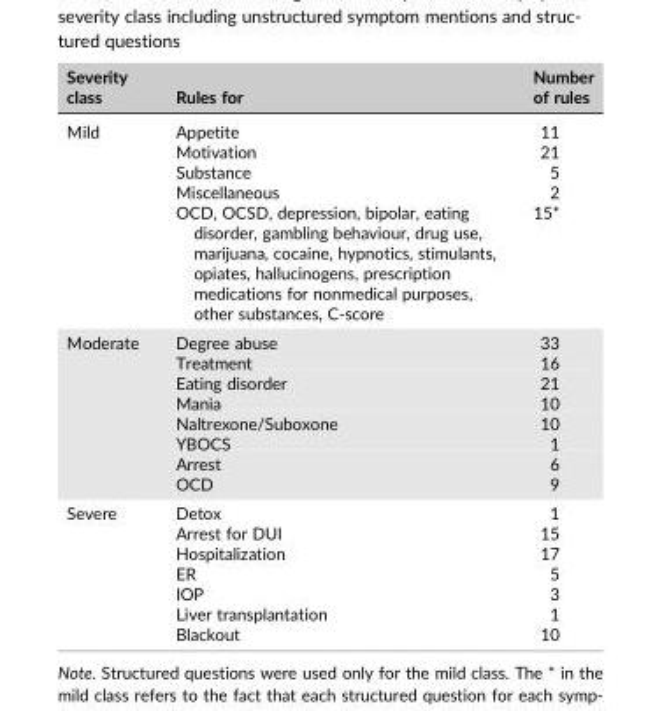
<table><thead><tr><td>Severity class</td><td>Rules for</td><td>Number of rules</td></tr></thead><tbody><tr><td rowspan="5">Mild</td><td>Appetite</td><td>11</td></tr><tr><td>Motivation</td><td>21</td></tr><tr><td>Substance</td><td>5</td></tr><tr><td>Miscellaneous</td><td>2</td></tr><tr><td>OCD, OCSD, depression, bipolar, eating disorder, gambling behaviour, drug use, marijuana, cocaine, hypnotics, stimulants, opiates, hallucinogens, prescription medications for nonmedical purposes, other substances, C‐score</td><td>15*</td></tr><tr><td rowspan="8">Moderate</td><td>Degree abuse</td><td>33</td></tr><tr><td>Treatment</td><td>16</td></tr><tr><td>Eating disorder</td><td>21</td></tr><tr><td>Mania</td><td>10</td></tr><tr><td>Naltrexone/Suboxone</td><td>10</td></tr><tr><td>YBOCS</td><td>1</td></tr><tr><td>Arrest</td><td>6</td></tr><tr><td>OCD</td><td>9</td></tr><tr><td rowspan="7">Severe</td><td>Detox</td><td>1</td></tr><tr><td>Arrest for DUI</td><td>15</td></tr><tr><td>Hospitalization</td><td>17</td></tr><tr><td>ER</td><td>5</td></tr><tr><td>IOP</td><td>3</td></tr><tr><td>Liver transplantation</td><td>1</td></tr><tr><td>Blackout</td><td>10</td></tr></tbody></table>